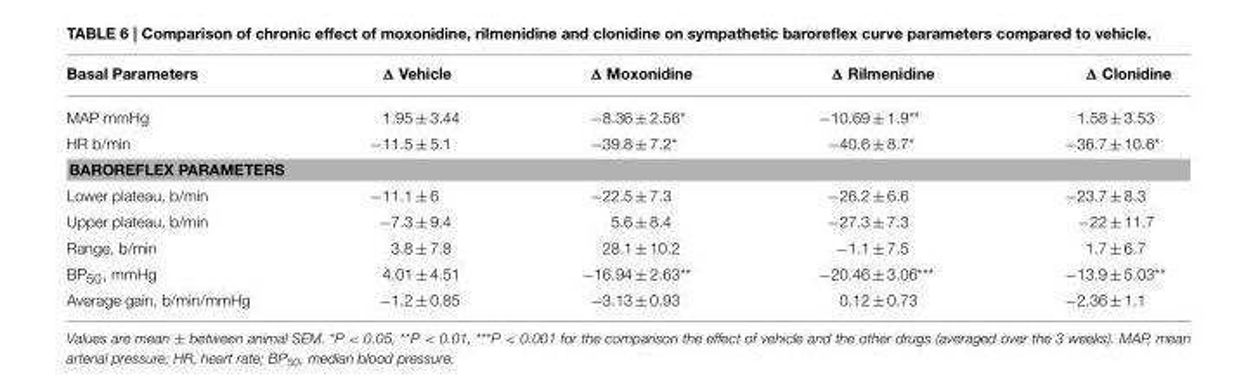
<table><thead><tr><td>Basal Parameters</td><td>Δ Vehicle</td><td>Δ Moxonidine</td><td>Δ Rilmenidine</td><td>Δ Clonidine</td></tr></thead><tbody><tr><td>MAP mmHg</td><td>1.95 ± 3.44</td><td>−8.36 ± 2.56*</td><td>−10.69 ± 1.9**</td><td>1.58 ± 3.53</td></tr><tr><td>HR b/min</td><td>−11.5 ± 5.1</td><td>−39.8 ± 7.2*</td><td>−40.6 ± 8.7*</td><td>−36.7 ± 10.6*</td></tr><tr><td colspan="5">BAROREFLEX PARAMETERS</td></tr><tr><td>Lower plateau, b/min</td><td>−11.1 ± 6</td><td>−22.5 ± 7.3</td><td>−26.2 ± 6.6</td><td>−23.7 ± 8.3</td></tr><tr><td>Upper plateau, b/min</td><td>−7.3 ± 9.4</td><td>5.6 ± 8.4</td><td>−27.3 ± 7.3</td><td>−22 ± 11.7</td></tr><tr><td>Range, b/min</td><td>3.8 ± 7.8</td><td>28.1 ± 10.2</td><td>−1.1 ± 7.5</td><td>1.7 ± 6.7</td></tr><tr><td>BP<sub>50</sub>, mmHg</td><td>4.01 ± 4.51</td><td>−16.94 ± 2.63**</td><td>−20.46 ± 3.06***</td><td>−13.9 ± 5.03**</td></tr><tr><td>Average gain, b/min/mmHg</td><td>−1.2 ± 0.85</td><td>−3.13 ± 0.93</td><td>0.12 ± 0.73</td><td>−2.36 ± 1.1</td></tr></tbody></table>